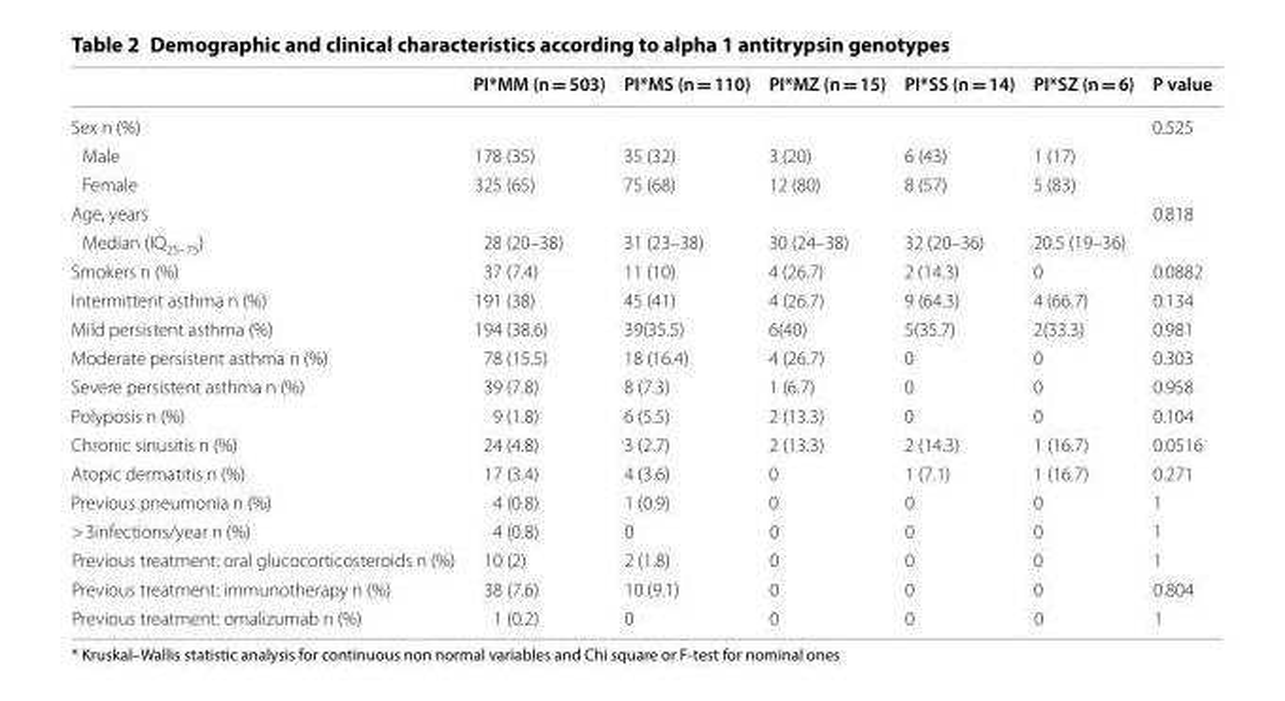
<table><thead><tr><td></td><td>PI*MM (n = 503)</td><td>PI*MS (n = 110)</td><td>PI*MZ (n = 15)</td><td>PI*SS (n = 14)</td><td>PI*SZ (n = 6)</td><td>P value</td></tr></thead><tbody><tr><td colspan="6">Sex n (%)</td><td rowspan="3">0.525</td></tr><tr><td>Male</td><td>178 (35)</td><td>35 (32)</td><td>3 (20)</td><td>6 (43)</td><td>1 (17)</td></tr><tr><td>Female</td><td>325 (65)</td><td>75 (68)</td><td>12 (80)</td><td>8 (57)</td><td>5 (83)</td></tr><tr><td colspan="6">Age, years</td><td rowspan="2">0.818</td></tr><tr><td>Median (IQ<sub>25–75</sub>)</td><td>28 (20–38)</td><td>31 (23–38)</td><td>30 (24–38)</td><td>32 (20–36)</td><td>20.5 (19–36)</td></tr><tr><td>Smokers n (%)</td><td>37 (7.4)</td><td>11 (10)</td><td>4 (26.7)</td><td>2 (14.3)</td><td>0</td><td>0.0882</td></tr><tr><td>Intermittent asthma n (%)</td><td>191 (38)</td><td>45 (41)</td><td>4 (26.7)</td><td>9 (64.3)</td><td>4 (66.7)</td><td>0.134</td></tr><tr><td>Mild persistent asthma (%)</td><td>194 (38.6)</td><td>39(35.5)</td><td>6(40)</td><td>5(35.7)</td><td>2(33.3)</td><td>0.981</td></tr><tr><td>Moderate persistent asthma n (%)</td><td>78 (15.5)</td><td>18 (16.4)</td><td>4 (26.7)</td><td>0</td><td>0</td><td>0.303</td></tr><tr><td>Severe persistent asthma n (%)</td><td>39 (7.8)</td><td>8 (7.3)</td><td>1 (6.7)</td><td>0</td><td>0</td><td>0.958</td></tr><tr><td>Polyposis n (%)</td><td>9 (1.8)</td><td>6 (5.5)</td><td>2 (13.3)</td><td>0</td><td>0</td><td>0.104</td></tr><tr><td>Chronic sinusitis n (%)</td><td>24 (4.8)</td><td>3 (2.7)</td><td>2 (13.3)</td><td>2 (14.3)</td><td>1 (16.7)</td><td>0.0516</td></tr><tr><td>Atopic dermatitis n (%)</td><td>17 (3.4)</td><td>4 (3.6)</td><td>0</td><td>1 (7.1)</td><td>1 (16.7)</td><td>0.271</td></tr><tr><td>Previous pneumonia n (%)</td><td>4 (0.8)</td><td>1 (0.9)</td><td>0</td><td>0</td><td>0</td><td>1</td></tr><tr><td>&gt; 3infections/year n (%)</td><td>4 (0.8)</td><td>0</td><td>0</td><td>0</td><td>0</td><td>1</td></tr><tr><td>Previous treatment: oral glucocorticosteroids n (%)</td><td>10 (2)</td><td>2 (1.8)</td><td>0</td><td>0</td><td>0</td><td>1</td></tr><tr><td>Previous treatment: immunotherapy n (%)</td><td>38 (7.6)</td><td>10 (9.1)</td><td>0</td><td>0</td><td>0</td><td>0.804</td></tr><tr><td>Previous treatment: omalizumab n (%)</td><td>1 (0.2)</td><td>0</td><td>0</td><td>0</td><td>0</td><td>1</td></tr></tbody></table>